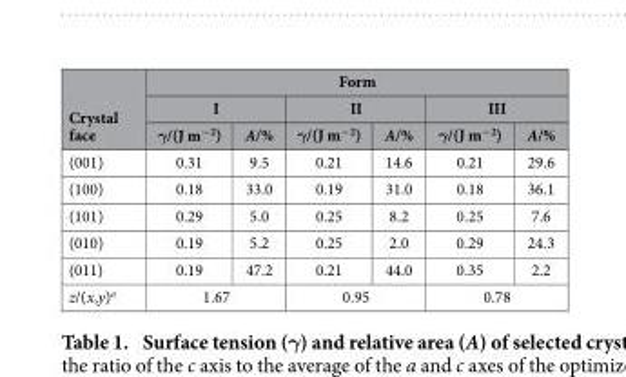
<table><thead><tr><td rowspan="3">Crystal face</td><td colspan="6">Form</td></tr><tr><td colspan="2">I</td><td colspan="2">II</td><td colspan="2">III</td></tr><tr><td>γ/(J m<sup>−2</sup>)</td><td>A/%</td><td>γ/(J m<sup>−2</sup>)</td><td>A/%</td><td>γ/(J m<sup>−2</sup>)</td><td>A/%</td></tr></thead><tbody><tr><td>(001)</td><td>0.31</td><td>9.5</td><td>0.21</td><td>14.6</td><td>0.21</td><td>29.6</td></tr><tr><td>(100)</td><td>0.18</td><td>33.0</td><td>0.19</td><td>31.0</td><td>0.18</td><td>36.1</td></tr><tr><td>(101)</td><td>0.29</td><td>5.0</td><td>0.25</td><td>8.2</td><td>0.25</td><td>7.6</td></tr><tr><td>(010)</td><td>0.19</td><td>5.2</td><td>0.25</td><td>2.0</td><td>0.29</td><td>24.3</td></tr><tr><td>(011)</td><td>0.19</td><td>47.2</td><td>0.21</td><td>44.0</td><td>0.35</td><td>2.2</td></tr><tr><td>z/(x,y)<sup>a</sup></td><td colspan="2">1.67</td><td colspan="2">0.95</td><td colspan="2">0.78</td></tr></tbody></table>